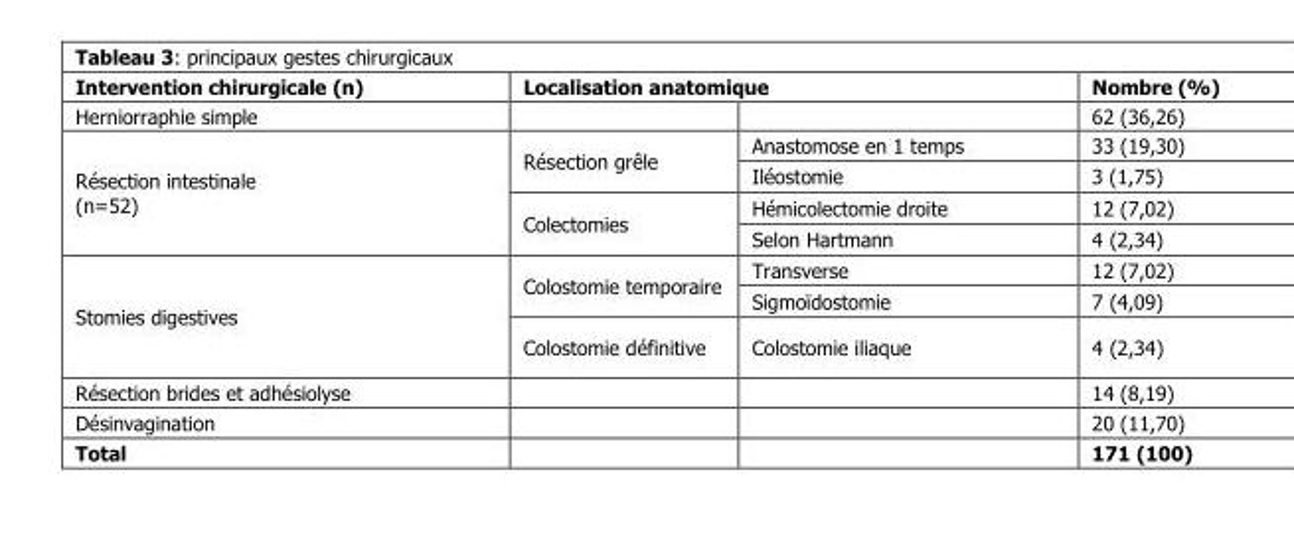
<table><thead><tr><td rowspan="2">Intervention chirurgicale (n) Herniorraphie simple</td><td colspan="2">Localisation anatomique</td><td rowspan="2">Nombre (%) 62 (36,26)</td></tr><tr><td></td><td></td></tr></thead><tbody><tr><td rowspan="4">Résection intestinale (n=52)</td><td rowspan="2">Résection grêle</td><td>Anastomose en 1 temps</td><td>33 (19,30)</td></tr><tr><td>Iléostomie</td><td>3 (1,75)</td></tr><tr><td rowspan="2">Colectomies</td><td>Hémicolectomie droite</td><td>12 (7,02)</td></tr><tr><td>Selon Hartmann</td><td>4 (2,34)</td></tr><tr><td rowspan="3">Stomies digestives</td><td rowspan="2">Colostomie temporaire</td><td>Transverse</td><td>12 (7,02)</td></tr><tr><td>Sigmoïdostomie</td><td>7 (4,09)</td></tr><tr><td>Colostomie définitive</td><td>Colostomie iliaque</td><td>4 (2,34)</td></tr><tr><td>Résection brides et adhésiolyse</td><td></td><td></td><td>14 (8,19)</td></tr><tr><td>Désinvagination</td><td></td><td></td><td>20 (11,70)</td></tr><tr><td>Total</td><td></td><td></td><td>171 (100)</td></tr></tbody></table>